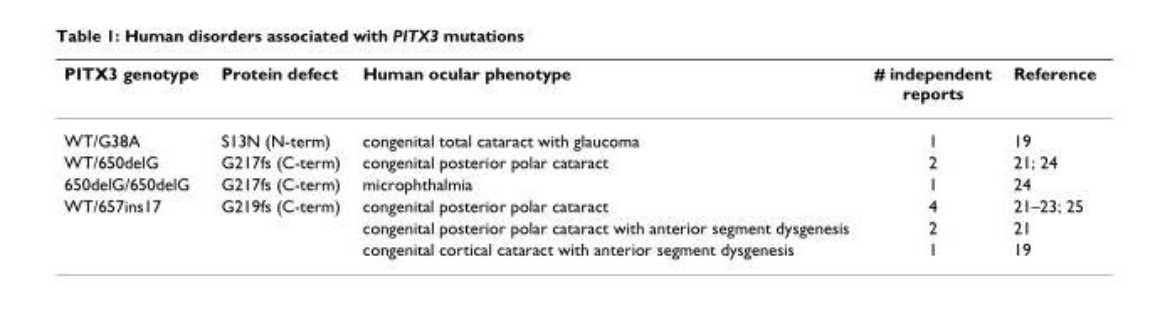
<table><thead><tr><td>PITX3 genotype</td><td>Protein defect</td><td>Human ocular phenotype</td><td># independent reports</td><td>Reference</td></tr></thead><tbody><tr><td>WT/G38A</td><td>S13N (N-term)</td><td>congenital total cataract with glaucoma</td><td>1</td><td>19</td></tr><tr><td>WT/650delG</td><td>G217fs (C-term)</td><td>congenital posterior polar cataract</td><td>2</td><td>21; 24</td></tr><tr><td>650delG/650delG</td><td>G217fs (C-term)</td><td>microphthalmia</td><td>1</td><td>24</td></tr><tr><td rowspan="3">WT/657ins17</td><td>G219fs (C-term)</td><td>congenital posterior polar cataract</td><td>4</td><td>21–23; 25</td></tr><tr><td></td><td>congenital posterior polar cataract with anterior segment dysgenesis</td><td>2</td><td>21</td></tr><tr><td></td><td>congenital cortical cataract with anterior segment dysgenesis</td><td>1</td><td>19</td></tr></tbody></table>